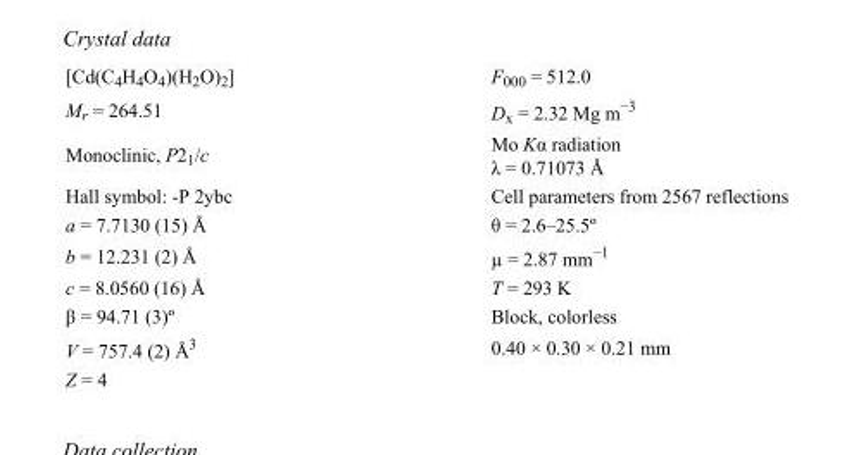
<table><tbody><tr><td>[Cd(C<sub>4</sub>H<sub>4</sub>O<sub>4</sub>)(H<sub>2</sub>O)<sub>2</sub>]</td><td>F000 = 512.0</td></tr><tr><td>M<sub>r</sub> = 264.51</td><td>D<sub>x</sub> = 2.32 Mg m<sup>−3</sup></td></tr><tr><td>Monoclinic, P2<sub>1</sub>/c</td><td>Mo Kα radiation λ = 0.71073 Å</td></tr><tr><td>Hall symbol: -P 2ybc</td><td>Cell parameters from 2567 reflections</td></tr><tr><td>a = 7.7130 (15) Å</td><td>θ = 2.6–25.5º</td></tr><tr><td>b = 12.231 (2) Å</td><td>µ = 2.87 mm<sup>−1</sup></td></tr><tr><td>c = 8.0560 (16) Å</td><td>T = 293 K</td></tr><tr><td>β = 94.71 (3)º</td><td>Block, colorless</td></tr><tr><td>V = 757.4 (2) Å<sup>3</sup></td><td>0.40 × 0.30 × 0.21 mm</td></tr><tr><td>Z = 4</td><td></td></tr></tbody></table>